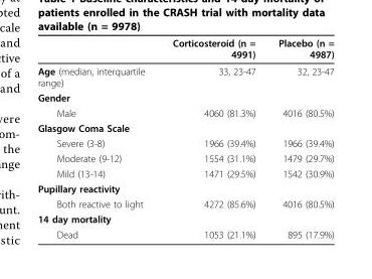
<table><thead><tr><td></td><td>Corticosteroid (n = 4991)</td><td>Placebo (n = 4987)</td></tr></thead><tbody><tr><td>Age (median, interquartile range)</td><td>33, 23-47</td><td>32, 23-47</td></tr><tr><td colspan="3">Gender</td></tr><tr><td>Male</td><td>4060 (81.3%)</td><td>4016 (80.5%)</td></tr><tr><td colspan="3">Glasgow Coma Scale</td></tr><tr><td>Severe (3-8)</td><td>1966 (39.4%)</td><td>1966 (39.4%)</td></tr><tr><td>Moderate (9-12)</td><td>1554 (31.1%)</td><td>1479 (29.7%)</td></tr><tr><td>Mild (13-14)</td><td>1471 (29.5%)</td><td>1542 (30.9%)</td></tr><tr><td colspan="3">Pupillary reactivity</td></tr><tr><td>Both reactive to light</td><td>4272 (85.6%)</td><td>4016 (80.5%)</td></tr><tr><td colspan="3">14 day mortality</td></tr><tr><td>Dead</td><td>1053 (21.1%)</td><td>895 (17.9%)</td></tr></tbody></table>